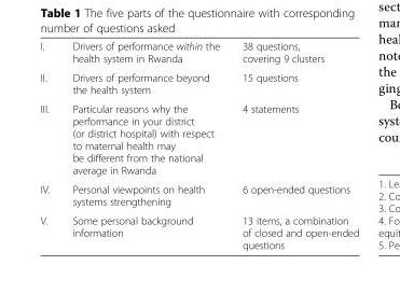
<table><tbody><tr><td>I.</td><td>Drivers of performance within the health system in Rwanda</td><td>38 questions, covering 9 clusters</td></tr><tr><td>II.</td><td>Drivers of performance beyond the health system</td><td>15 questions</td></tr><tr><td>III.</td><td>Particular reasons why the performance in your district (or district hospital) with respect to maternal health may be different from the national average in Rwanda</td><td>4 statements</td></tr><tr><td>IV.</td><td>Personal viewpoints on health systems strengthening</td><td>6 open-ended questions</td></tr><tr><td>V.</td><td>Some personal background information</td><td>13 items, a combination of closed and open-ended questions</td></tr></tbody></table>